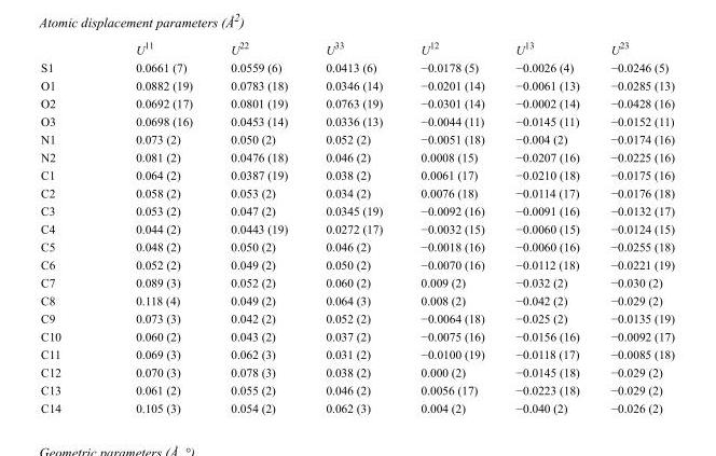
<table><thead><tr><td></td><td>U<sup>11</sup></td><td>U<sup>22</sup></td><td>U<sup>33</sup></td><td>U<sup>12</sup></td><td>U<sup>13</sup></td><td>U<sup>23</sup></td></tr></thead><tbody><tr><td>S1</td><td>0.0661 (7)</td><td>0.0559 (6)</td><td>0.0413 (6)</td><td>−0.0178 (5)</td><td>−0.0026 (4)</td><td>−0.0246 (5)</td></tr><tr><td>O1</td><td>0.0882 (19)</td><td>0.0783 (18)</td><td>0.0346 (14)</td><td>−0.0201 (14)</td><td>−0.0061 (13)</td><td>−0.0285 (13)</td></tr><tr><td>O2</td><td>0.0692 (17)</td><td>0.0801 (19)</td><td>0.0763 (19)</td><td>−0.0301 (14)</td><td>−0.0002 (14)</td><td>−0.0428 (16)</td></tr><tr><td>O3</td><td>0.0698 (16)</td><td>0.0453 (14)</td><td>0.0336 (13)</td><td>−0.0044 (11)</td><td>−0.0145 (11)</td><td>−0.0152 (11)</td></tr><tr><td>N1</td><td>0.073 (2)</td><td>0.050 (2)</td><td>0.052 (2)</td><td>−0.0051 (18)</td><td>−0.004 (2)</td><td>−0.0174 (16)</td></tr><tr><td>N2</td><td>0.081 (2)</td><td>0.0476 (18)</td><td>0.046 (2)</td><td>0.0008 (15)</td><td>−0.0207 (16)</td><td>−0.0225 (16)</td></tr><tr><td>C1</td><td>0.064 (2)</td><td>0.0387 (19)</td><td>0.038 (2)</td><td>0.0061 (17)</td><td>−0.0210 (18)</td><td>−0.0175 (16)</td></tr><tr><td>C2</td><td>0.058 (2)</td><td>0.053 (2)</td><td>0.034 (2)</td><td>0.0076 (18)</td><td>−0.0114 (17)</td><td>−0.0176 (18)</td></tr><tr><td>C3</td><td>0.053 (2)</td><td>0.047 (2)</td><td>0.0345 (19)</td><td>−0.0092 (16)</td><td>−0.0091 (16)</td><td>−0.0132 (17)</td></tr><tr><td>C4</td><td>0.044 (2)</td><td>0.0443 (19)</td><td>0.0272 (17)</td><td>−0.0032 (15)</td><td>−0.0060 (15)</td><td>−0.0124 (15)</td></tr><tr><td>C5</td><td>0.048 (2)</td><td>0.050 (2)</td><td>0.046 (2)</td><td>−0.0018 (16)</td><td>−0.0060 (16)</td><td>−0.0255 (18)</td></tr><tr><td>C6</td><td>0.052 (2)</td><td>0.049 (2)</td><td>0.050 (2)</td><td>−0.0070 (16)</td><td>−0.0112 (18)</td><td>−0.0221 (19)</td></tr><tr><td>C7</td><td>0.089 (3)</td><td>0.052 (2)</td><td>0.060 (2)</td><td>0.009 (2)</td><td>−0.032 (2)</td><td>−0.030 (2)</td></tr><tr><td>C8</td><td>0.118 (4)</td><td>0.049 (2)</td><td>0.064 (3)</td><td>0.008 (2)</td><td>−0.042 (2)</td><td>−0.029 (2)</td></tr><tr><td>C9</td><td>0.073 (3)</td><td>0.042 (2)</td><td>0.052 (2)</td><td>−0.0064 (18)</td><td>−0.025 (2)</td><td>−0.0135 (19)</td></tr><tr><td>C10</td><td>0.060 (2)</td><td>0.043 (2)</td><td>0.037 (2)</td><td>−0.0075 (16)</td><td>−0.0156 (16)</td><td>−0.0092 (17)</td></tr><tr><td>C11</td><td>0.069 (3)</td><td>0.062 (3)</td><td>0.031 (2)</td><td>−0.0100 (19)</td><td>−0.0118 (17)</td><td>−0.0085 (18)</td></tr><tr><td>C12</td><td>0.070 (3)</td><td>0.078 (3)</td><td>0.038 (2)</td><td>0.000 (2)</td><td>−0.0145 (18)</td><td>−0.029 (2)</td></tr><tr><td>C13</td><td>0.061 (2)</td><td>0.055 (2)</td><td>0.046 (2)</td><td>0.0056 (17)</td><td>−0.0223 (18)</td><td>−0.029 (2)</td></tr><tr><td>C14</td><td>0.105 (3)</td><td>0.054 (2)</td><td>0.062 (3)</td><td>0.004 (2)</td><td>−0.040 (2)</td><td>−0.026 (2)</td></tr></tbody></table>